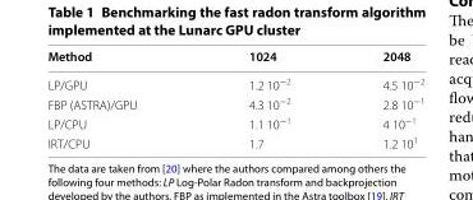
<table><thead><tr><td>Method</td><td>1024</td><td>2048</td></tr></thead><tbody><tr><td>LP/GPU</td><td>1.2 10<sup>−2</sup></td><td>4.5 10<sup>−2</sup></td></tr><tr><td>FBP (ASTRA)/GPU</td><td>4.3 10<sup>−2</sup></td><td>2.8 10<sup>−1</sup></td></tr><tr><td>LP/CPU</td><td>1.1 10<sup>−1</sup></td><td>4 10<sup>−1</sup></td></tr><tr><td>IRT/CPU</td><td>1.7</td><td>1.2 10<sup>1</sup></td></tr></tbody></table>